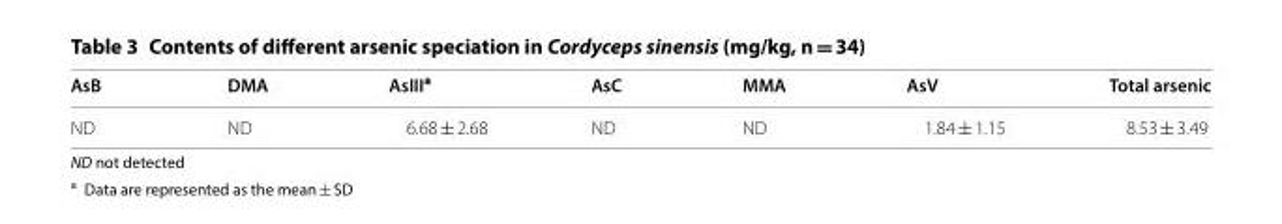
<table><thead><tr><td>AsB</td><td>DMA</td><td>AsIII<sup>a</sup></td><td>AsC</td><td>MMA</td><td>AsV</td><td>Total arsenic</td></tr></thead><tbody><tr><td>ND</td><td>ND</td><td>6.68 ± 2.68</td><td>ND</td><td>ND</td><td>1.84 ± 1.15</td><td>8.53 ± 3.49</td></tr></tbody></table>